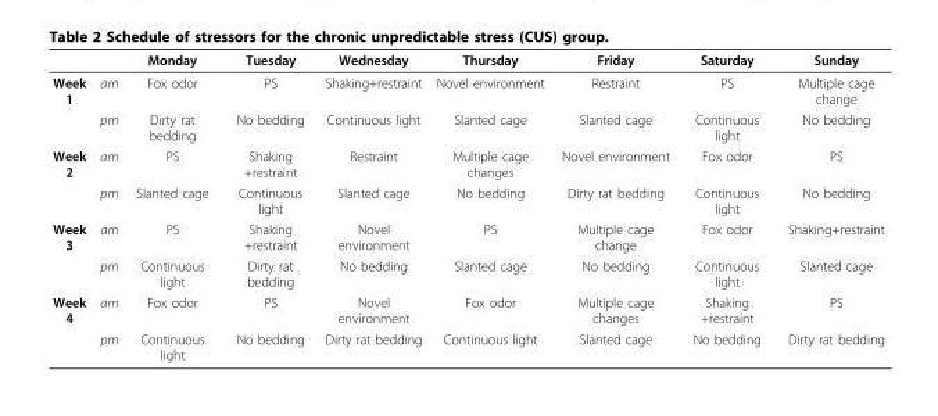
<table><thead><tr><td></td><td></td><td>Monday</td><td>Tuesday</td><td>Wednesday</td><td>Thursday</td><td>Friday</td><td>Saturday</td><td>Sunday</td></tr></thead><tbody><tr><td rowspan="2">Week 1</td><td>am</td><td>Fox odor</td><td>PS</td><td>Shaking+restraint</td><td>Novel environment</td><td>Restraint</td><td>PS</td><td>Multiple cage change</td></tr><tr><td>pm</td><td>Dirty rat bedding</td><td>No bedding</td><td>Continuous light</td><td>Slanted cage</td><td>Slanted cage</td><td>Continuous light</td><td>No bedding</td></tr><tr><td rowspan="2">Week 2</td><td>am</td><td>PS</td><td>Shaking +restraint</td><td>Restraint</td><td>Multiple cage changes</td><td>Novel environment</td><td>Fox odor</td><td>PS</td></tr><tr><td>pm</td><td>Slanted cage</td><td>Continuous light</td><td>Slanted cage</td><td>No bedding</td><td>Dirty rat bedding</td><td>Continuous light</td><td>No bedding</td></tr><tr><td rowspan="2">Week 3</td><td>am</td><td>PS</td><td>Shaking +restraint</td><td>Novel environment</td><td>PS</td><td>Multiple cage change</td><td>Fox odor</td><td>Shaking+restraint</td></tr><tr><td>pm</td><td>Continuous light</td><td>Dirty rat bedding</td><td>No bedding</td><td>Slanted cage</td><td>No bedding</td><td>Continuous light</td><td>Slanted cage</td></tr><tr><td rowspan="2">Week 4</td><td>am</td><td>Fox odor</td><td>PS</td><td>Novel environment</td><td>Fox odor</td><td>Multiple cage changes</td><td>Shaking +restraint</td><td>PS</td></tr><tr><td>pm</td><td>Continuous light</td><td>No bedding</td><td>Dirty rat bedding</td><td>Continuous light</td><td>Slanted cage</td><td>No bedding</td><td>Dirty rat bedding</td></tr></tbody></table>